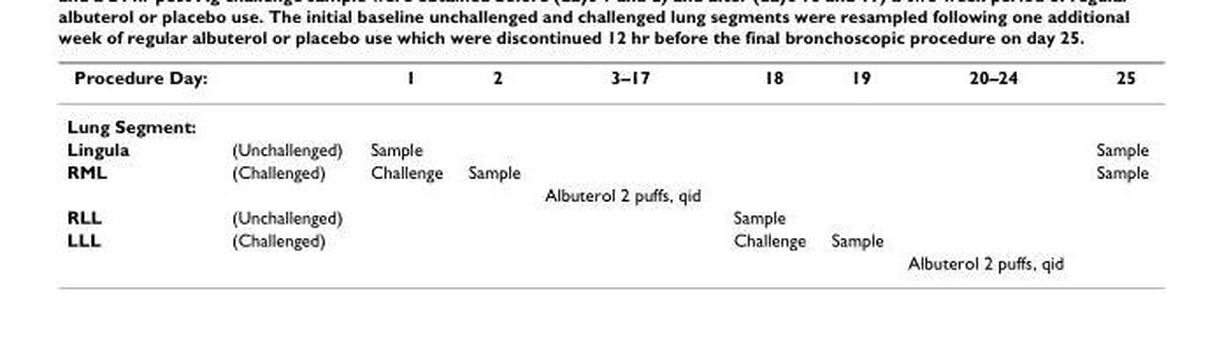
<table><thead><tr><td>Procedure Day:</td><td></td><td>1</td><td>2</td><td>3–17</td><td>18</td><td>19</td><td>20–24</td><td>25</td></tr></thead><tbody><tr><td colspan="9">Lung Segment:</td></tr><tr><td>Lingula</td><td>(Unchallenged)</td><td>Sample</td><td></td><td></td><td></td><td></td><td></td><td>Sample</td></tr><tr><td rowspan="2">RML</td><td>(Challenged)</td><td>Challenge</td><td>Sample</td><td></td><td></td><td></td><td></td><td>Sample</td></tr><tr><td></td><td></td><td></td><td>Albuterol 2 puffs, qid</td><td></td><td></td><td></td><td></td></tr><tr><td>RLL</td><td>(Unchallenged)</td><td></td><td></td><td></td><td>Sample</td><td></td><td></td><td></td></tr><tr><td rowspan="2">LLL</td><td>(Challenged)</td><td></td><td></td><td></td><td>Challenge</td><td>Sample</td><td></td><td></td></tr><tr><td></td><td></td><td></td><td></td><td></td><td></td><td>Albuterol 2 puffs, qid</td><td></td></tr></tbody></table>